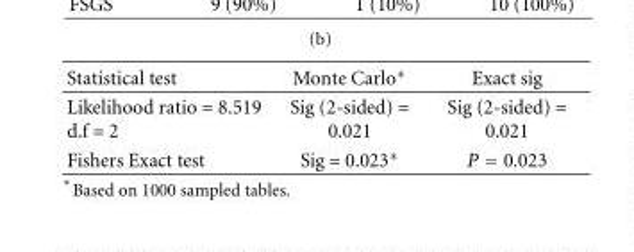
<table><thead><tr><td>Statistical test</td><td>Monte Carlo∗</td><td>Exact sig</td></tr></thead><tbody><tr><td>Likelihood ratio = 8.519 d.f = 2</td><td>Sig (2-sided) = 0.021</td><td>Sig (2-sided) = 0.021</td></tr><tr><td>Fishers Exact test</td><td>Sig = 0.023∗</td><td>P = 0.023</td></tr></tbody></table>